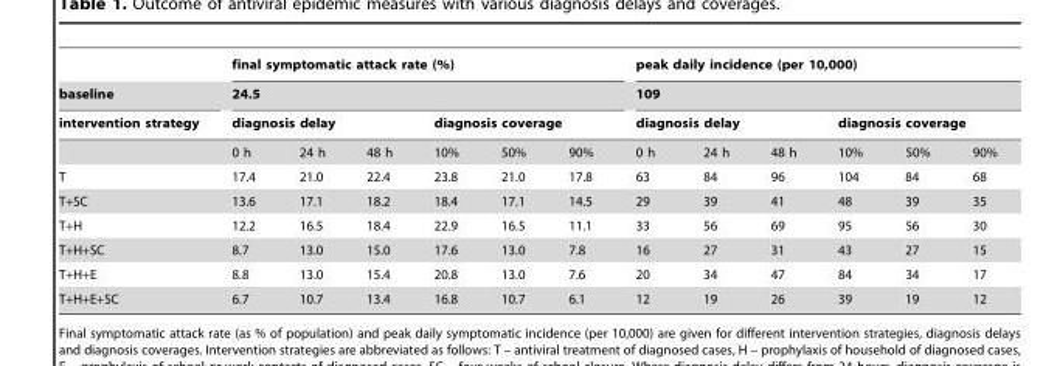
<table><thead><tr><td rowspan="4">baseline intervention strategy</td><td rowspan="2" colspan="6">final symptomatic attack rate (%) 24.5</td><td rowspan="2" colspan="6">peak daily incidence (per 10,000) 109</td></tr><tr></tr><tr><td colspan="3">diagnosis delay</td><td colspan="3">diagnosis coverage</td><td colspan="3">diagnosis delay</td><td colspan="3">diagnosis coverage</td></tr><tr><td>0 h</td><td>24 h</td><td>48 h</td><td>10%</td><td>50%</td><td>90%</td><td>0 h</td><td>24 h</td><td>48 h</td><td>10%</td><td>50%</td><td>90%</td></tr></thead><tbody><tr><td>T</td><td>17.4</td><td>21.0</td><td>22.4</td><td>23.8</td><td>21.0</td><td>17.8</td><td>63</td><td>84</td><td>96</td><td>104</td><td>84</td><td>68</td></tr><tr><td>T+SC</td><td>13.6</td><td>17.1</td><td>18.2</td><td>18.4</td><td>17.1</td><td>14.5</td><td>29</td><td>39</td><td>41</td><td>48</td><td>39</td><td>35</td></tr><tr><td>T+H</td><td>12.2</td><td>16.5</td><td>18.4</td><td>22.9</td><td>16.5</td><td>11.1</td><td>33</td><td>56</td><td>69</td><td>95</td><td>56</td><td>30</td></tr><tr><td>T+H+SC</td><td>8.7</td><td>13.0</td><td>15.0</td><td>17.6</td><td>13.0</td><td>7.8</td><td>16</td><td>27</td><td>31</td><td>43</td><td>27</td><td>15</td></tr><tr><td>T+H+E</td><td>8.8</td><td>13.0</td><td>15.4</td><td>20.8</td><td>13.0</td><td>7.6</td><td>20</td><td>34</td><td>47</td><td>84</td><td>34</td><td>17</td></tr><tr><td>T+H+E+SC</td><td>6.7</td><td>10.7</td><td>13.4</td><td>16.8</td><td>10.7</td><td>6.1</td><td>12</td><td>19</td><td>26</td><td>39</td><td>19</td><td>12</td></tr></tbody></table>